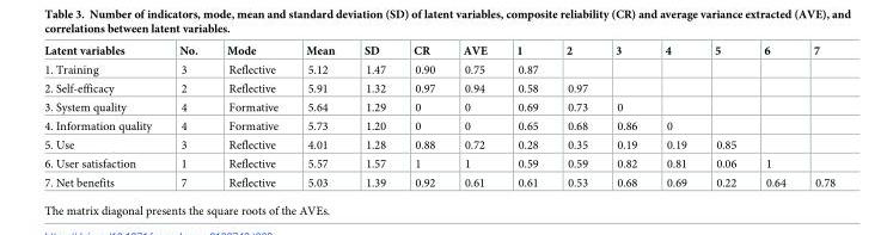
<table><thead><tr><td>Latent variables</td><td>No.</td><td>Mode</td><td>Mean</td><td>SD</td><td>CR</td><td>AVE</td><td>1</td><td>2</td><td>3</td><td>4</td><td>5</td><td>6</td><td>7</td></tr></thead><tbody><tr><td>1. Training</td><td>3</td><td>Reflective</td><td>5.12</td><td>1.47</td><td>0.90</td><td>0.75</td><td>0.87</td><td></td><td></td><td></td><td></td><td></td><td></td></tr><tr><td>2. Self-efficacy</td><td>2</td><td>Reflective</td><td>5.91</td><td>1.32</td><td>0.97</td><td>0.94</td><td>0.58</td><td>0.97</td><td></td><td></td><td></td><td></td><td></td></tr><tr><td>3. System quality</td><td>4</td><td>Formative</td><td>5.64</td><td>1.29</td><td>0</td><td>0</td><td>0.69</td><td>0.73</td><td>0</td><td></td><td></td><td></td><td></td></tr><tr><td>4. Information quality</td><td>4</td><td>Formative</td><td>5.73</td><td>1.20</td><td>0</td><td>0</td><td>0.65</td><td>0.68</td><td>0.86</td><td>0</td><td></td><td></td><td></td></tr><tr><td>5. Use</td><td>3</td><td>Reflective</td><td>4.01</td><td>1.28</td><td>0.88</td><td>0.72</td><td>0.28</td><td>0.35</td><td>0.19</td><td>0.19</td><td>0.85</td><td></td><td></td></tr><tr><td>6. User satisfaction</td><td>1</td><td>Reflective</td><td>5.57</td><td>1.57</td><td>1</td><td>1</td><td>0.59</td><td>0.59</td><td>0.82</td><td>0.81</td><td>0.06</td><td>1</td><td></td></tr><tr><td>7. Net benefits</td><td>7</td><td>Reflective</td><td>5.03</td><td>1.39</td><td>0.92</td><td>0.61</td><td>0.61</td><td>0.53</td><td>0.68</td><td>0.69</td><td>0.22</td><td>0.64</td><td>0.78</td></tr></tbody></table>